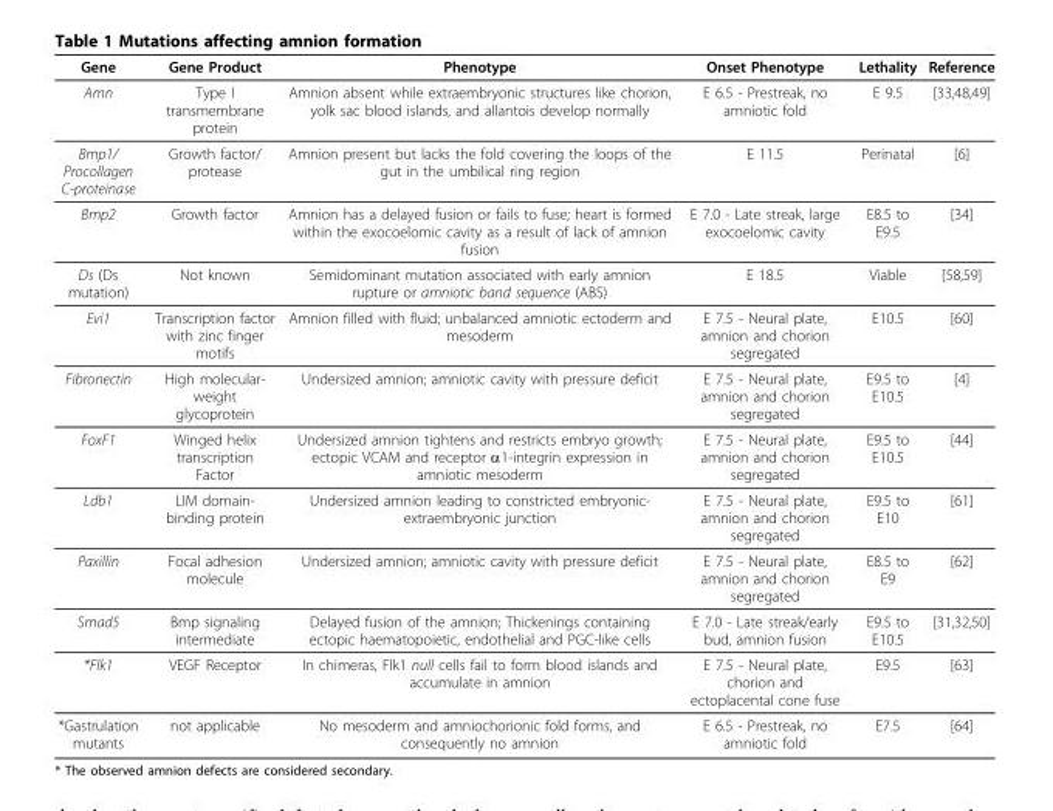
<table><thead><tr><td>Gene</td><td>Gene Product</td><td>Phenotype</td><td>Onset Phenotype</td><td>Lethality</td><td>Reference</td></tr></thead><tbody><tr><td>Amn</td><td>Type I transmembrane protein</td><td>Amnion absent while extraembryonic structures like chorion, yolk sac blood islands, and allantois develop normally</td><td>E 6.5 - Prestreak, no amniotic fold</td><td>E 9.5</td><td>[33,48,49]</td></tr><tr><td>Bmp1/ Procollagen C-proteinase</td><td>Growth factor/ protease</td><td>Amnion present but lacks the fold covering the loops of the gut in the umbilical ring region</td><td>E 11.5</td><td>Perinatal</td><td>[6]</td></tr><tr><td>Bmp2</td><td>Growth factor</td><td>Amnion has a delayed fusion or fails to fuse; heart is formed within the exocoelomic cavity as a result of lack of amnion fusion</td><td>E 7.0 - Late streak, large exocoelomic cavity</td><td>E8.5 to E9.5</td><td>[34]</td></tr><tr><td>Ds (Ds mutation)</td><td>Not known</td><td>Semidominant mutation associated with early amnion rupture or amniotic band sequence (ABS)</td><td>E 18.5</td><td>Viable</td><td>[58,59]</td></tr><tr><td>Evi1</td><td>Transcription factor with zinc finger motifs</td><td>Amnion filled with fluid; unbalanced amniotic ectoderm and mesoderm</td><td>E 7.5 - Neural plate, amnion and chorion segregated</td><td>E10.5</td><td>[60]</td></tr><tr><td>Fibronectin</td><td>High molecular- weight glycoprotein</td><td>Undersized amnion; amniotic cavity with pressure deficit</td><td>E 7.5 - Neural plate, amnion and chorion segregated</td><td>E9.5 to E10.5</td><td>[4]</td></tr><tr><td>FoxF1</td><td>Winged helix transcription Factor</td><td>Undersized amnion tightens and restricts embryo growth; ectopic VCAM and receptor α1-integrin expression in amniotic mesoderm</td><td>E 7.5 - Neural plate, amnion and chorion segregated</td><td>E9.5 to E10.5</td><td>[44]</td></tr><tr><td>Ldb1</td><td>LIM domain- binding protein</td><td>Undersized amnion leading to constricted embryonic- extraembryonic junction</td><td>E 7.5 - Neural plate, amnion and chorion segregated</td><td>E9.5 to E10</td><td>[61]</td></tr><tr><td>Paxillin</td><td>Focal adhesion molecule</td><td>Undersized amnion; amniotic cavity with pressure deficit</td><td>E 7.5 - Neural plate, amnion and chorion segregated</td><td>E8.5 to E9</td><td>[62]</td></tr><tr><td>Smad5</td><td>Bmp signaling intermediate</td><td>Delayed fusion of the amnion; Thickenings containing ectopic haematopoietic, endothelial and PGC-like cells</td><td>E 7.0 - Late streak/early bud, amnion fusion</td><td>E9.5 to E10.5</td><td>[31,32,50]</td></tr><tr><td>*Flk1</td><td>VEGF Receptor</td><td>In chimeras, Flk1 null cells fail to form blood islands and accumulate in amnion</td><td>E 7.5 - Neural plate, chorion and ectoplacental cone fuse</td><td>E9.5</td><td>[63]</td></tr><tr><td>*Gastrulation mutants</td><td>not applicable</td><td>No mesoderm and amniochorionic fold forms, and consequently no amnion</td><td>E 6.5 - Prestreak, no amniotic fold</td><td>E7.5</td><td>[64]</td></tr></tbody></table>